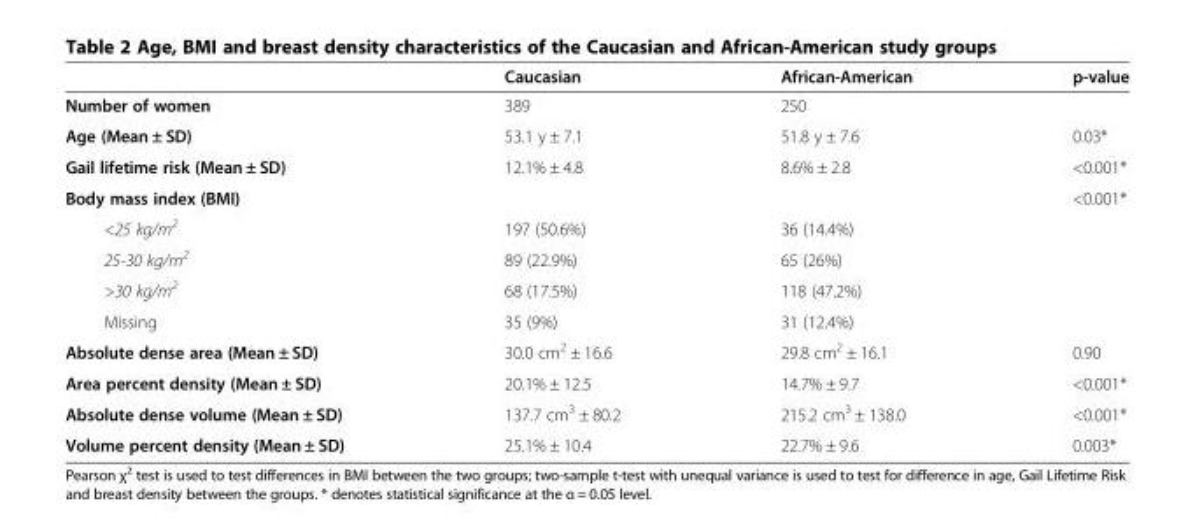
<table><thead><tr><td></td><td>Caucasian</td><td>African-American</td><td>p-value</td></tr></thead><tbody><tr><td>Number of women</td><td>389</td><td>250</td><td></td></tr><tr><td>Age (Mean ± SD)</td><td>53.1 y ± 7.1</td><td>51.8 y ± 7.6</td><td>0.03*</td></tr><tr><td>Gail lifetime risk (Mean ± SD)</td><td>12.1% ± 4.8</td><td>8.6% ± 2.8</td><td>&lt;0.001*</td></tr><tr><td>Body mass index (BMI)</td><td></td><td></td><td>&lt;0.001*</td></tr><tr><td>&lt;25 kg/m<sup>2</sup></td><td>197 (50.6%)</td><td>36 (14.4%)</td><td></td></tr><tr><td>25-30 kg/m<sup>2</sup></td><td>89 (22.9%)</td><td>65 (26%)</td><td></td></tr><tr><td>&gt;30 kg/m<sup>2</sup></td><td>68 (17.5%)</td><td>118 (47.2%)</td><td></td></tr><tr><td>Missing</td><td>35 (9%)</td><td>31 (12.4%)</td><td></td></tr><tr><td>Absolute dense area (Mean ± SD)</td><td>30.0 cm<sup>2</sup> ± 16.6</td><td>29.8 cm<sup>2</sup> ± 16.1</td><td>0.90</td></tr><tr><td>Area percent density (Mean ± SD)</td><td>20.1% ± 12.5</td><td>14.7% ± 9.7</td><td>&lt;0.001*</td></tr><tr><td>Absolute dense volume (Mean ± SD)</td><td>137.7 cm<sup>3</sup> ± 80.2</td><td>215.2 cm<sup>3</sup> ± 138.0</td><td>&lt;0.001*</td></tr><tr><td>Volume percent density (Mean ± SD)</td><td>25.1% ± 10.4</td><td>22.7% ± 9.6</td><td>0.003*</td></tr></tbody></table>